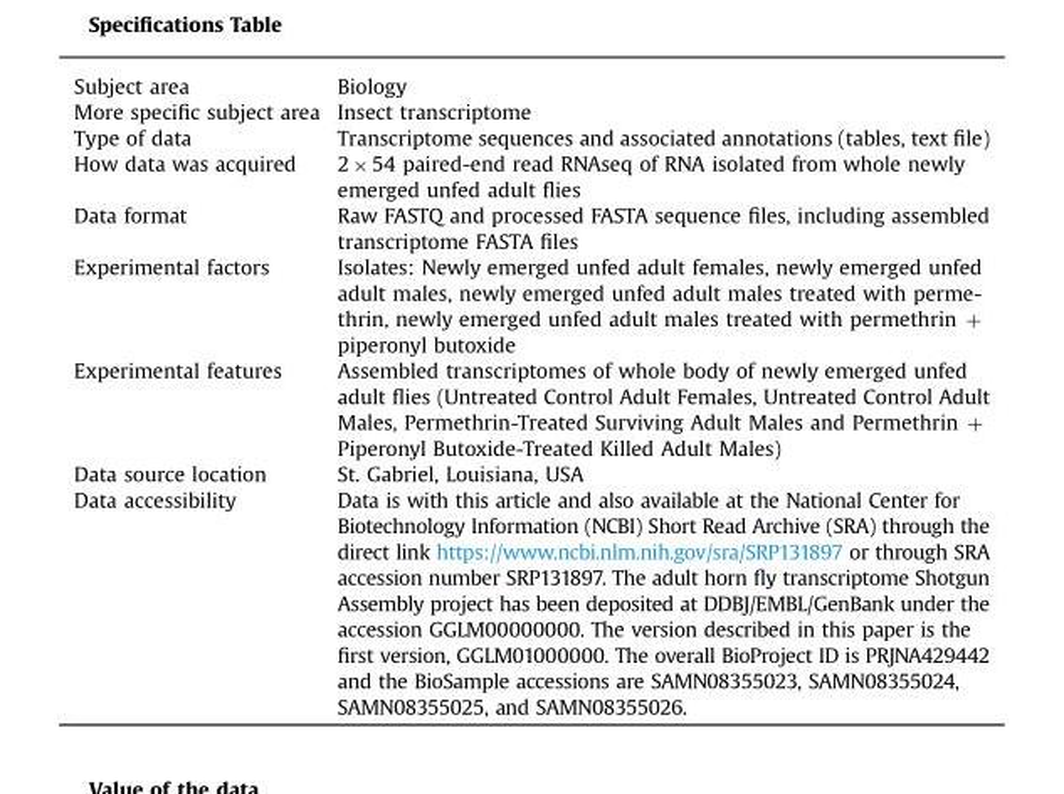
<table><tbody><tr><td>Subject area</td><td>Biology</td></tr><tr><td>More specific subject area</td><td>Insect transcriptome</td></tr><tr><td>Type of data</td><td>Transcriptome sequences and associated annotations (tables, text file)</td></tr><tr><td>How data was acquired</td><td>2 × 54 paired-end read RNAseq of RNA isolated from whole newly emerged unfed adult flies</td></tr><tr><td>Data format</td><td>Raw FASTQ and processed FASTA sequence files, including assembled transcriptome FASTA files</td></tr><tr><td>Experimental factors</td><td>Isolates: Newly emerged unfed adult females, newly emerged unfed adult males, newly emerged unfed adult males treated with perme- thrin, newly emerged unfed adult males treated with permethrin þ piperonyl butoxide</td></tr><tr><td>Experimental features</td><td>Assembled transcriptomes of whole body of newly emerged unfed adult flies (Untreated Control Adult Females, Untreated Control Adult Males, Permethrin-Treated Surviving Adult Males and Permethrin + Piperonyl Butoxide-Treated Killed Adult Males)</td></tr><tr><td>Data source location</td><td>St. Gabriel, Louisiana, USA</td></tr><tr><td>Data accessibility</td><td>Data is with this article and also available at the National Center for Biotechnology Information (NCBI) Short Read Archive (SRA) through the direct link https://www.ncbi.nlm.nih.gov/sra/SRP131897 or through SRA accession number SRP131897. The adult horn fly transcriptome Shotgun Assembly project has been deposited at DDBJ/EMBL/GenBank under the accession GGLM00000000. The version described in this paper is the first version, GGLM01000000. The overall BioProject ID is PRJNA429442 and the BioSample accessions are SAMN08355023, SAMN08355024, SAMN08355025, and SAMN08355026.</td></tr></tbody></table>